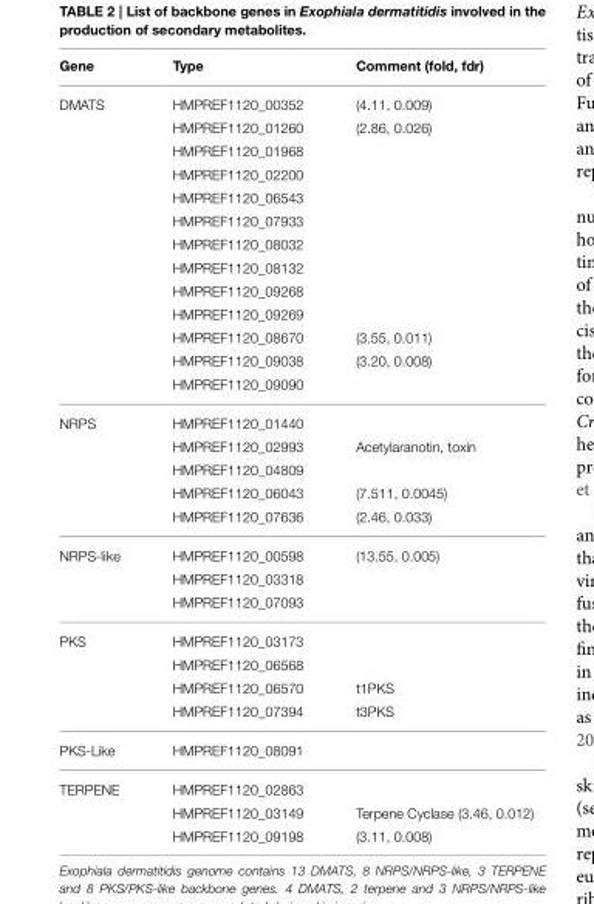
<table><thead><tr><td>Gene</td><td>Type</td><td>Comment (fold, fdr)</td></tr></thead><tbody><tr><td rowspan="13">DMATS</td><td>HMPREF1120_00352</td><td>(4.11, 0.009)</td></tr><tr><td>HMPREF1120_01260</td><td>(2.86, 0.026)</td></tr><tr><td>HMPREF1120_01968</td><td></td></tr><tr><td>HMPREF1120_02200</td><td></td></tr><tr><td>HMPREF1120_06543</td><td></td></tr><tr><td>HMPREF1120_07933</td><td></td></tr><tr><td>HMPREF1120_08032</td><td></td></tr><tr><td>HMPREF1120_08132</td><td></td></tr><tr><td>HMPREF1120_09268</td><td></td></tr><tr><td>HMPREF1120_09269</td><td></td></tr><tr><td>HMPREF1120_08670</td><td>(3.55, 0.011)</td></tr><tr><td>HMPREF1120_09038</td><td>(3.20, 0.008)</td></tr><tr><td>HMPREF1120_09090</td><td></td></tr><tr><td rowspan="5">NRPS</td><td>HMPREF1120_01440</td><td></td></tr><tr><td>HMPREF1120_02993</td><td>Acetylaranotin, toxin</td></tr><tr><td>HMPREF1120_04809</td><td></td></tr><tr><td>HMPREF1120_06043</td><td>(7.511, 0.0045)</td></tr><tr><td>HMPREF1120_07636</td><td>(2.46, 0.033)</td></tr><tr><td rowspan="3">NRPS-like</td><td>HMPREF1120_00598</td><td>(13.55, 0.005)</td></tr><tr><td>HMPREF1120_03318</td><td></td></tr><tr><td>HMPREF1120_07093</td><td></td></tr><tr><td rowspan="4">PKS</td><td>HMPREF1120_03173</td><td></td></tr><tr><td>HMPREF1120_06568</td><td></td></tr><tr><td>HMPREF1120_06570</td><td>t1PKS</td></tr><tr><td>HMPREF1120_07394</td><td>t3PKS</td></tr><tr><td>PKS-Like</td><td>HMPREF1120_08091</td><td></td></tr><tr><td rowspan="3">TERPENE</td><td>HMPREF1120_02863</td><td></td></tr><tr><td>HMPREF1120_03149</td><td>Terpene Cyclase (3.46, 0.012)</td></tr><tr><td>HMPREF1120_09198</td><td>(3.11, 0.008)</td></tr></tbody></table>